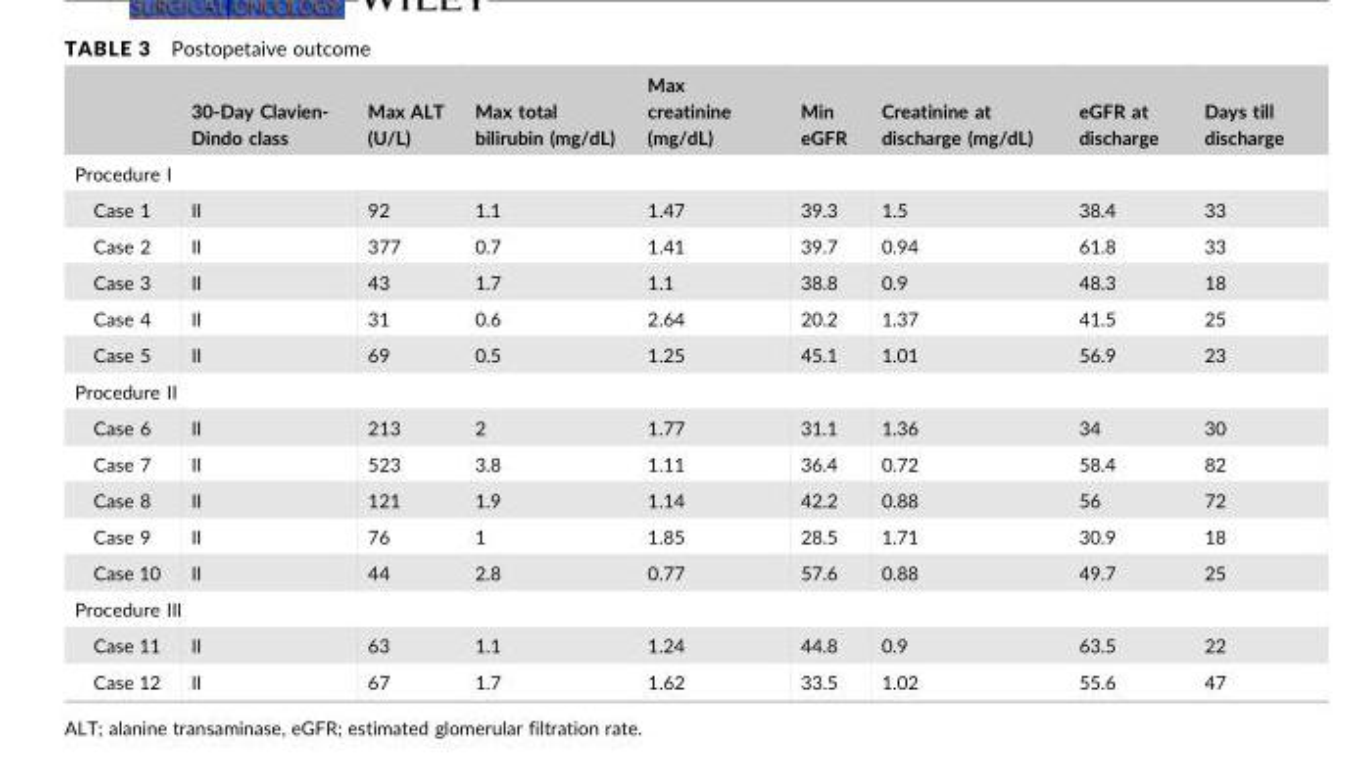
<table><thead><tr><td></td><td>30-Day Clavien- Dindo class</td><td>Max ALT (U/L)</td><td>Max total bilirubin (mg/dL)</td><td>Max creatinine (mg/dL)</td><td>Min eGFR</td><td>Creatinine at discharge (mg/dL)</td><td>eGFR at discharge</td><td>Days till discharge</td></tr></thead><tbody><tr><td colspan="9">Procedure I</td></tr><tr><td>Case 1</td><td>II</td><td>92</td><td>1.1</td><td>1.47</td><td>39.3</td><td>1.5</td><td>38.4</td><td>33</td></tr><tr><td>Case 2</td><td>II</td><td>377</td><td>0.7</td><td>1.41</td><td>39.7</td><td>0.94</td><td>61.8</td><td>33</td></tr><tr><td>Case 3</td><td>II</td><td>43</td><td>1.7</td><td>1.1</td><td>38.8</td><td>0.9</td><td>48.3</td><td>18</td></tr><tr><td>Case 4</td><td>II</td><td>31</td><td>0.6</td><td>2.64</td><td>20.2</td><td>1.37</td><td>41.5</td><td>25</td></tr><tr><td>Case 5</td><td>II</td><td>69</td><td>0.5</td><td>1.25</td><td>45.1</td><td>1.01</td><td>56.9</td><td>23</td></tr><tr><td colspan="9">Procedure II</td></tr><tr><td>Case 6</td><td>II</td><td>213</td><td>2</td><td>1.77</td><td>31.1</td><td>1.36</td><td>34</td><td>30</td></tr><tr><td>Case 7</td><td>II</td><td>523</td><td>3.8</td><td>1.11</td><td>36.4</td><td>0.72</td><td>58.4</td><td>82</td></tr><tr><td>Case 8</td><td>II</td><td>121</td><td>1.9</td><td>1.14</td><td>42.2</td><td>0.88</td><td>56</td><td>72</td></tr><tr><td>Case 9</td><td>II</td><td>76</td><td>1</td><td>1.85</td><td>28.5</td><td>1.71</td><td>30.9</td><td>18</td></tr><tr><td>Case 10</td><td>II</td><td>44</td><td>2.8</td><td>0.77</td><td>57.6</td><td>0.88</td><td>49.7</td><td>25</td></tr><tr><td colspan="9">Procedure III</td></tr><tr><td>Case 11</td><td>II</td><td>63</td><td>1.1</td><td>1.24</td><td>44.8</td><td>0.9</td><td>63.5</td><td>22</td></tr><tr><td>Case 12</td><td>II</td><td>67</td><td>1.7</td><td>1.62</td><td>33.5</td><td>1.02</td><td>55.6</td><td>47</td></tr></tbody></table>